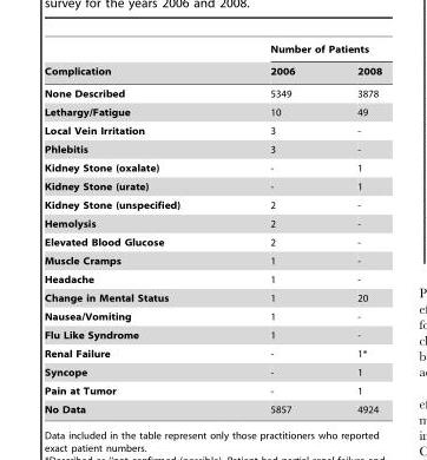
<table><thead><tr><td rowspan="2">Complication</td><td colspan="2">Number of Patients</td></tr><tr><td>2006</td><td>2008</td></tr></thead><tbody><tr><td>None Described</td><td>5349</td><td>3878</td></tr><tr><td>Lethargy/Fatigue</td><td>10</td><td>49</td></tr><tr><td>Local Vein Irritation</td><td>3</td><td>-</td></tr><tr><td>Phlebitis</td><td>3</td><td>-</td></tr><tr><td>Kidney Stone (oxalate)</td><td>-</td><td>1</td></tr><tr><td>Kidney Stone (urate)</td><td>-</td><td>1</td></tr><tr><td>Kidney Stone (unspecified)</td><td>2</td><td>-</td></tr><tr><td>Hemolysis</td><td>2</td><td>-</td></tr><tr><td>Elevated Blood Glucose</td><td>2</td><td>-</td></tr><tr><td>Muscle Cramps</td><td>1</td><td>-</td></tr><tr><td>Headache</td><td>1</td><td>-</td></tr><tr><td>Change in Mental Status</td><td>1</td><td>20</td></tr><tr><td>Nausea/Vomiting</td><td>1</td><td>-</td></tr><tr><td>Flu Like Syndrome</td><td>1</td><td>-</td></tr><tr><td>Renal Failure</td><td>-</td><td>1*</td></tr><tr><td>Syncope</td><td>-</td><td>1</td></tr><tr><td>Pain at Tumor</td><td>-</td><td>1</td></tr><tr><td>No Data</td><td>5857</td><td>4924</td></tr></tbody></table>